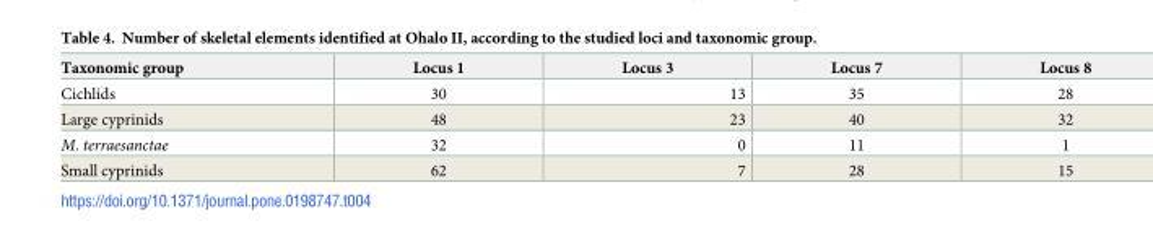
<table><thead><tr><td>Taxonomic group</td><td>Locus 1</td><td>Locus 3</td><td>Locus 7</td><td>Locus 8</td></tr></thead><tbody><tr><td>Cichlids</td><td>30</td><td>13</td><td>35</td><td>28</td></tr><tr><td>Large cyprinids</td><td>48</td><td>23</td><td>40</td><td>32</td></tr><tr><td>M. terraesanctae</td><td>32</td><td>0</td><td>11</td><td>1</td></tr><tr><td>Small cyprinids</td><td>62</td><td>7</td><td>28</td><td>15</td></tr></tbody></table>